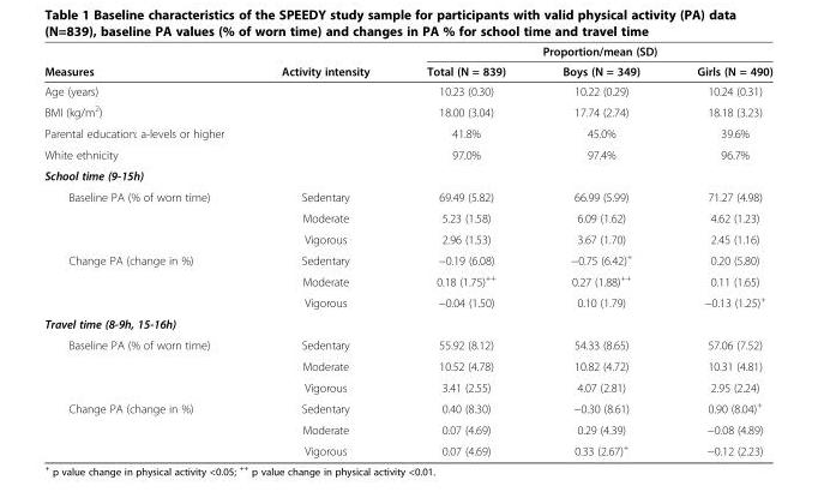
<table><thead><tr><td rowspan="2">Measures</td><td rowspan="2">Activity intensity</td><td colspan="3">Proportion/mean (SD)</td></tr><tr><td>Total (N = 839)</td><td>Boys (N = 349)</td><td>Girls (N = 490)</td></tr></thead><tbody><tr><td>Age (years)</td><td></td><td>10.23 (0.30)</td><td>10.22 (0.29)</td><td>10.24 (0.31)</td></tr><tr><td>BMI (kg/m<sup>2</sup>)</td><td></td><td>18.00 (3.04)</td><td>17.74 (2.74)</td><td>18.18 (3.23)</td></tr><tr><td>Parental education: a-levels or higher</td><td></td><td>41.8%</td><td>45.0%</td><td>39.6%</td></tr><tr><td>White ethnicity</td><td></td><td>97.0%</td><td>97.4%</td><td>96.7%</td></tr><tr><td colspan="5">School time (9-15h)</td></tr><tr><td rowspan="3">Baseline PA (% of worn time)</td><td>Sedentary</td><td>69.49 (5.82)</td><td>66.99 (5.99)</td><td>71.27 (4.98)</td></tr><tr><td>Moderate</td><td>5.23 (1.58)</td><td>6.09 (1.62)</td><td>4.62 (1.23)</td></tr><tr><td>Vigorous</td><td>2.96 (1.53)</td><td>3.67 (1.70)</td><td>2.45 (1.16)</td></tr><tr><td rowspan="3">Change PA (change in %)</td><td>Sedentary</td><td>−0.19 (6.08)</td><td>−0.75 (6.42)<sup>+</sup></td><td>0.20 (5.80)</td></tr><tr><td>Moderate</td><td>0.18 (1.75)<sup>++</sup></td><td>0.27 (1.88)<sup>++</sup></td><td>0.11 (1.65)</td></tr><tr><td>Vigorous</td><td>−0.04 (1.50)</td><td>0.10 (1.79)</td><td>−0.13 (1.25)<sup>+</sup></td></tr><tr><td colspan="5">Travel time (8-9h, 15-16h)</td></tr><tr><td rowspan="3">Baseline PA (% of worn time)</td><td>Sedentary</td><td>55.92 (8.12)</td><td>54.33 (8.65)</td><td>57.06 (7.52)</td></tr><tr><td>Moderate</td><td>10.52 (4.78)</td><td>10.82 (4.72)</td><td>10.31 (4.81)</td></tr><tr><td>Vigorous</td><td>3.41 (2.55)</td><td>4.07 (2.81)</td><td>2.95 (2.24)</td></tr><tr><td rowspan="3">Change PA (change in %)</td><td>Sedentary</td><td>0.40 (8.30)</td><td>−0.30 (8.61)</td><td>0.90 (8.04)<sup>+</sup></td></tr><tr><td>Moderate</td><td>0.07 (4.69)</td><td>0.29 (4.39)</td><td>−0.08 (4.89)</td></tr><tr><td>Vigorous</td><td>0.07 (4.69)</td><td>0.33 (2.67)<sup>+</sup></td><td>−0.12 (2.23)</td></tr></tbody></table>